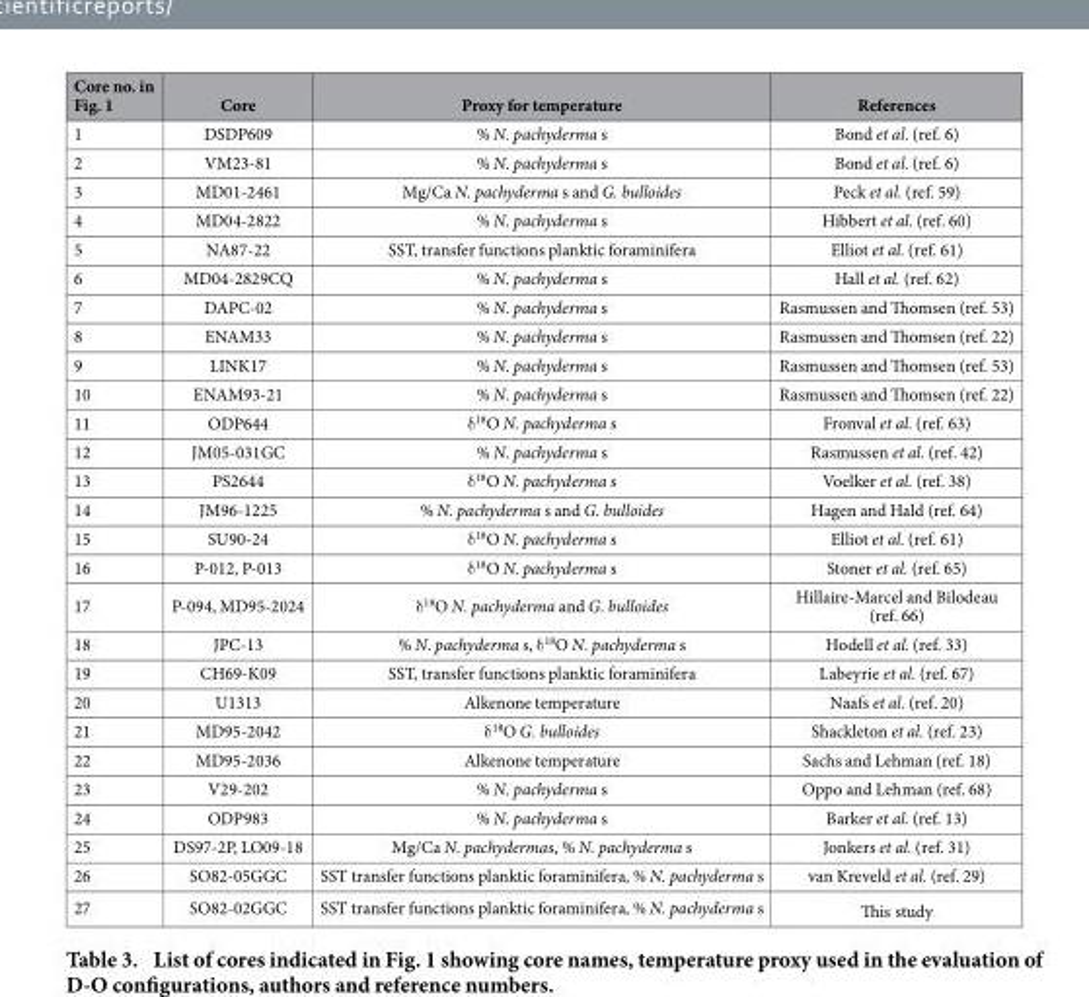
<table><thead><tr><td>Core no. in Fig. 1</td><td>Core</td><td>Proxy for temperature</td><td>References</td></tr></thead><tbody><tr><td>1</td><td>DSDP609</td><td>% N. pachyderma s</td><td>Bond et al. (ref. 6)</td></tr><tr><td>2</td><td>VM23-81</td><td>% N. pachyderma s</td><td>Bond et al. (ref. 6)</td></tr><tr><td>3</td><td>MD01-2461</td><td>Mg/Ca N. pachyderma s and G. bulloides</td><td>Peck et al. (ref. 59)</td></tr><tr><td>4</td><td>MD04-2822</td><td>% N. pachyderma s</td><td>Hibbert et al. (ref. 60)</td></tr><tr><td>5</td><td>NA87-22</td><td>SST, transfer functions planktic foraminifera</td><td>Elliot et al. (ref. 61)</td></tr><tr><td>6</td><td>MD04-2829CQ</td><td>% N. pachyderma s</td><td>Hall et al. (ref. 62)</td></tr><tr><td>7</td><td>DAPC-02</td><td>% N. pachyderma s</td><td>Rasmussen and Thomsen (ref. 53)</td></tr><tr><td>8</td><td>ENAM33</td><td>% N. pachyderma s</td><td>Rasmussen and Thomsen (ref. 22)</td></tr><tr><td>9</td><td>LINK17</td><td>% N. pachyderma s</td><td>Rasmussen and Thomsen (ref. 53)</td></tr><tr><td>10</td><td>ENAM93-21</td><td>% N. pachyderma s</td><td>Rasmussen and Thomsen (ref. 22)</td></tr><tr><td>11</td><td>ODP644</td><td>δ <sup>18</sup>O N. pachyderma s</td><td>Fronval et al. (ref. 63)</td></tr><tr><td>12</td><td>JM05-031GC</td><td>% N. pachyderma s</td><td>Rasmussen et al. (ref. 42)</td></tr><tr><td>13</td><td>PS2644</td><td>δ <sup>18</sup>O N. pachyderma s</td><td>Voelker et al. (ref. 38)</td></tr><tr><td>14</td><td>JM96-1225</td><td>% N. pachyderma s and G. bulloides</td><td>Hagen and Hald (ref. 64)</td></tr><tr><td>15</td><td>SU90-24</td><td>δ <sup>18</sup>O N. pachyderma s</td><td>Elliot et al. (ref. 61)</td></tr><tr><td>16</td><td>P-012, P-013</td><td>δ <sup>18</sup>O N. pachyderma s</td><td>Stoner et al. (ref. 65)</td></tr><tr><td>17</td><td>P-094, MD95-2024</td><td>δ <sup>18</sup>O N. pachyderma and G. bulloides</td><td>Hillaire-Marcel and Bilodeau (ref. 66)</td></tr><tr><td>18</td><td>JPC-13</td><td>% N. pachyderma s, δ <sup>18</sup>O N. pachyderma s</td><td>Hodell et al. (ref. 33)</td></tr><tr><td>19</td><td>CH69-K09</td><td>SST, transfer functions planktic foraminifera</td><td>Labeyrie et al. (ref. 67)</td></tr><tr><td>20</td><td>U1313</td><td>Alkenone temperature</td><td>Naafs et al. (ref. 20)</td></tr><tr><td>21</td><td>MD95-2042</td><td>δ <sup>18</sup>O G. bulloides</td><td>Shackleton et al. (ref. 23)</td></tr><tr><td>22</td><td>MD95-2036</td><td>Alkenone temperature</td><td>Sachs and Lehman (ref. 18)</td></tr><tr><td>23</td><td>V29-202</td><td>% N. pachyderma s</td><td>Oppo and Lehman (ref. 68)</td></tr><tr><td>24</td><td>ODP983</td><td>% N. pachyderma s</td><td>Barker et al. (ref. 13)</td></tr><tr><td>25</td><td>DS97-2P, LO09-18</td><td>Mg/Ca N. pachydermas, % N. pachyderma s</td><td>Jonkers et al. (ref. 31)</td></tr><tr><td>26</td><td>SO82-05GGC</td><td>SST transfer functions planktic foraminifera, % N. pachyderma s</td><td>van Kreveld et al. (ref. 29)</td></tr><tr><td>27</td><td>SO82-02GGC</td><td>SST transfer functions planktic foraminifera, % N. pachyderma s</td><td>This study</td></tr></tbody></table>